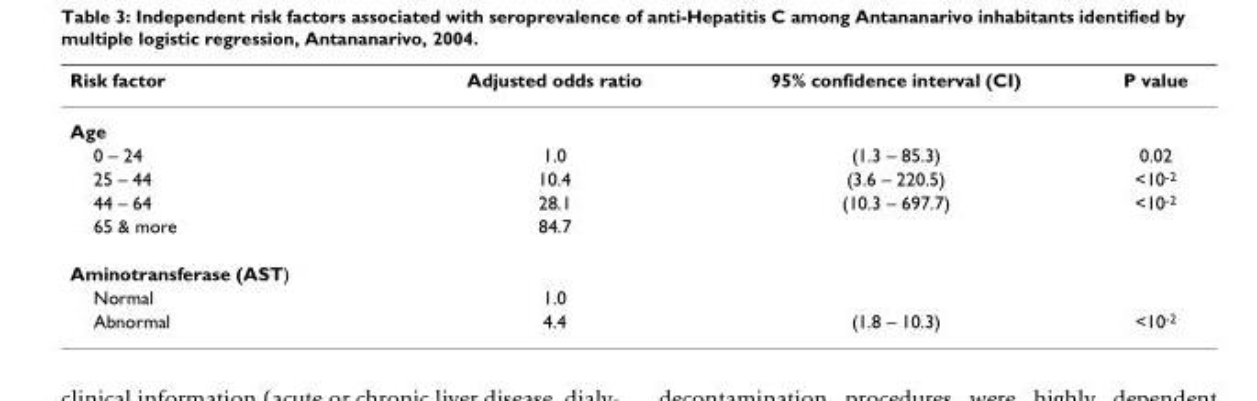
<table><thead><tr><td>Risk factor</td><td>Adjusted odds ratio</td><td>95% confidence interval (CI)</td><td>P value</td></tr></thead><tbody><tr><td colspan="4">Age</td></tr><tr><td>0 – 24</td><td>1.0</td><td>(1.3 – 85.3)</td><td>0.02</td></tr><tr><td>25 – 44</td><td>10.4</td><td>(3.6 – 220.5)</td><td>&lt;10<sup>-2</sup></td></tr><tr><td>44 – 64</td><td>28.1</td><td>(10.3 – 697.7)</td><td>&lt;10<sup>-2</sup></td></tr><tr><td>65 &amp; more</td><td>84.7</td><td></td><td></td></tr><tr><td colspan="4">Aminotransferase (AST)</td></tr><tr><td>Normal</td><td>1.0</td><td></td><td></td></tr><tr><td>Abnormal</td><td>4.4</td><td>(1.8 – 10.3)</td><td>&lt;10<sup>-2</sup></td></tr></tbody></table>